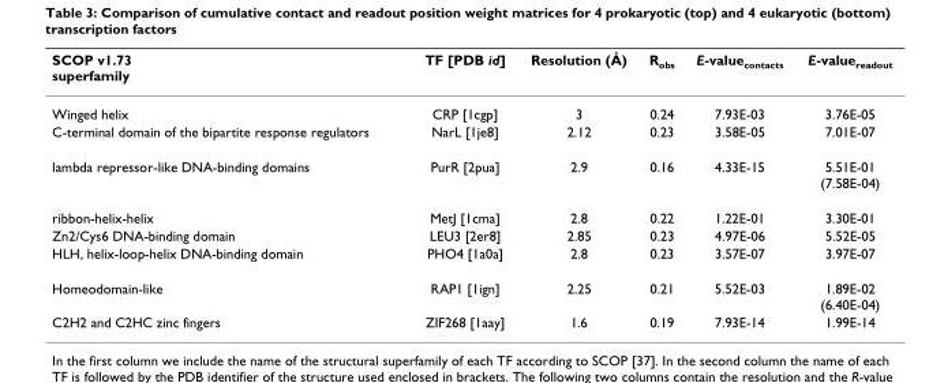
<table><thead><tr><td>SCOP v1.73 superfamily</td><td>TF [PDB id]</td><td>Resolution (Å)</td><td>R<sub>obs</sub></td><td>E-value<sub>contacts</sub></td><td>E-value<sub>readout</sub></td></tr></thead><tbody><tr><td>Winged helix</td><td>CRP [1cgp]</td><td>3</td><td>0.24</td><td>7.93E-03</td><td>3.76E-05</td></tr><tr><td>C-terminal domain of the bipartite response regulators</td><td>NarL [1je8]</td><td>2.12</td><td>0.23</td><td>3.58E-05</td><td>7.01E-07</td></tr><tr><td>lambda repressor-like DNA-binding domains</td><td>PurR [2pua]</td><td>2.9</td><td>0.16</td><td>4.33E-15</td><td>5.51E-01 (7.58E-04)</td></tr><tr><td>ribbon-helix-helix</td><td>MetJ [1cma]</td><td>2.8</td><td>0.22</td><td>1.22E-01</td><td>3.30E-01</td></tr><tr><td>Zn2/Cys6 DNA-binding domain</td><td>LEU3 [2er8]</td><td>2.85</td><td>0.23</td><td>4.97E-06</td><td>5.52E-05</td></tr><tr><td>HLH, helix-loop-helix DNA-binding domain</td><td>PHO4 [1a0a]</td><td>2.8</td><td>0.23</td><td>3.57E-07</td><td>3.97E-07</td></tr><tr><td>Homeodomain-like</td><td>RAP1 [1ign]</td><td>2.25</td><td>0.21</td><td>5.52E-03</td><td>1.89E-02 (6.40E-04)</td></tr><tr><td>C2H2 and C2HC zinc fingers</td><td>ZIF268 [1aay]</td><td>1.6</td><td>0.19</td><td>7.93E-14</td><td>1.99E-14</td></tr></tbody></table>